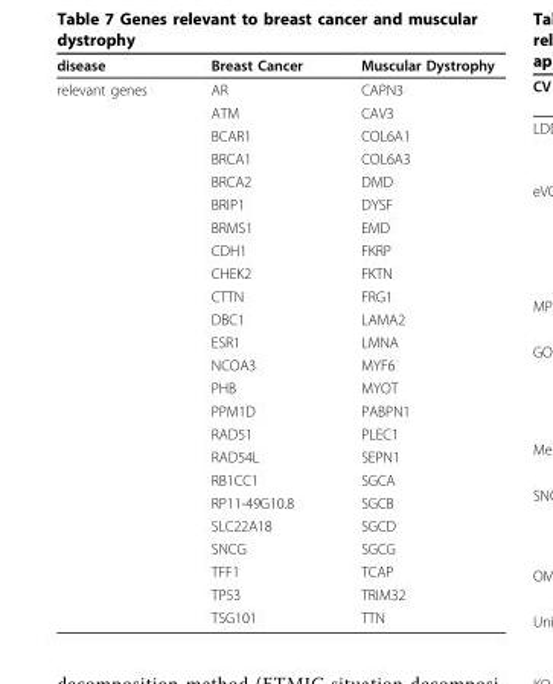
<table><thead><tr><td>disease</td><td>Breast Cancer</td><td>Muscular Dystrophy</td></tr></thead><tbody><tr><td rowspan="24">relevant genes</td><td>AR</td><td>CAPN3</td></tr><tr><td>ATM</td><td>CAV3</td></tr><tr><td>BCAR1</td><td>COL6A1</td></tr><tr><td>BRCA1</td><td>COL6A3</td></tr><tr><td>BRCA2</td><td>DMD</td></tr><tr><td>BRIP1</td><td>DYSF</td></tr><tr><td>BRMS1</td><td>EMD</td></tr><tr><td>CDH1</td><td>FKRP</td></tr><tr><td>CHEK2</td><td>FKTN</td></tr><tr><td>CTTN</td><td>FRG1</td></tr><tr><td>DBC1</td><td>LAMA2</td></tr><tr><td>ESR1</td><td>LMNA</td></tr><tr><td>NCOA3</td><td>MYF6</td></tr><tr><td>PHB</td><td>MYOT</td></tr><tr><td>PPM1D</td><td>PABPN1</td></tr><tr><td>RAD51</td><td>PLEC1</td></tr><tr><td>RAD54L</td><td>SEPN1</td></tr><tr><td>RB1CC1</td><td>SGCA</td></tr><tr><td>RP11-49G10.8</td><td>SGCB</td></tr><tr><td>SLC22A18</td><td>SGCD</td></tr><tr><td>SNCG</td><td>SGCG</td></tr><tr><td>TFF1</td><td>TCAP</td></tr><tr><td>TP53</td><td>TRIM32</td></tr><tr><td>TSG101</td><td>TTN</td></tr></tbody></table>